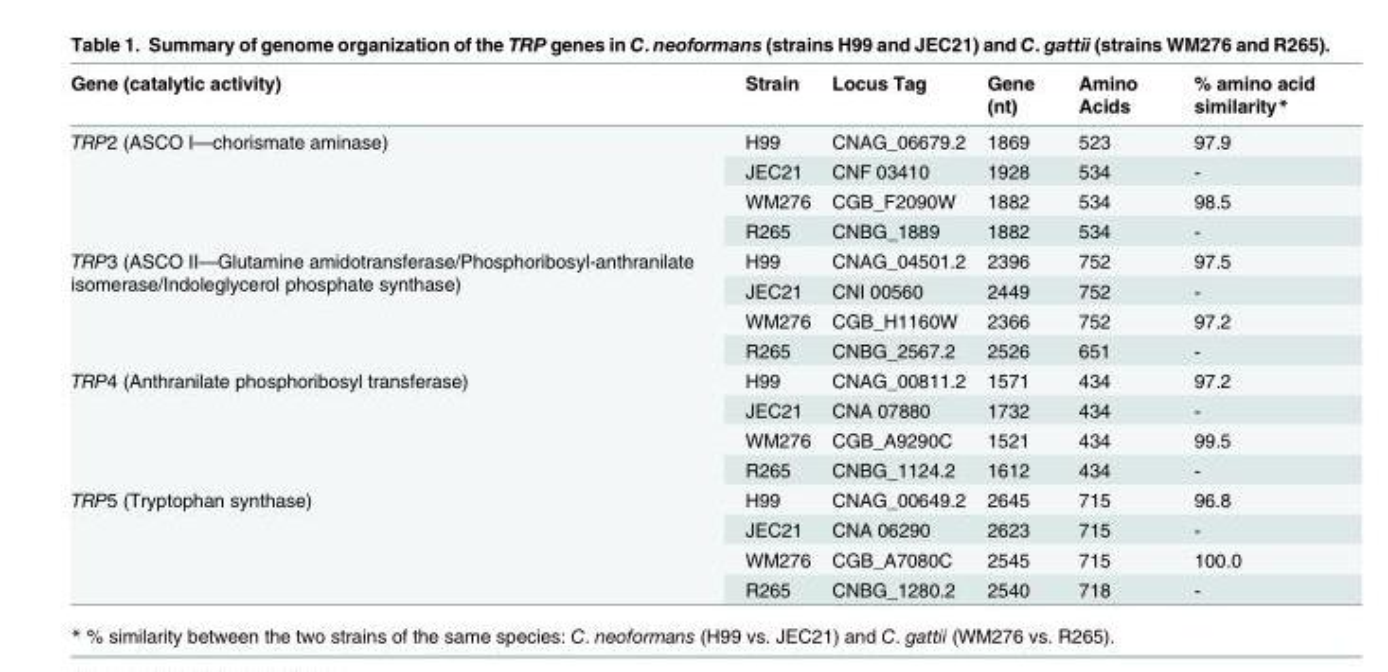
<table><thead><tr><td>Gene (catalytic activity)</td><td>Strain</td><td>Locus Tag</td><td>Gene (nt)</td><td>Amino Acids</td><td>% amino acid similarity*</td></tr></thead><tbody><tr><td rowspan="4">TRP2 (ASCO I—chorismate aminase)</td><td>H99</td><td>CNAG_06679.2</td><td>1869</td><td>523</td><td>97.9</td></tr><tr><td>JEC21</td><td>CNF 03410</td><td>1928</td><td>534</td><td>-</td></tr><tr><td>WM276</td><td>CGB_F2090W</td><td>1882</td><td>534</td><td>98.5</td></tr><tr><td>R265</td><td>CNBG_1889</td><td>1882</td><td>534</td><td>-</td></tr><tr><td rowspan="4">TRP3 (ASCO II—Glutamine amidotransferase/Phosphoribosyl-anthranilate isomerase/Indoleglycerol phosphate synthase)</td><td>H99</td><td>CNAG_04501.2</td><td>2396</td><td>752</td><td>97.5</td></tr><tr><td>JEC21</td><td>CNI 00560</td><td>2449</td><td>752</td><td>-</td></tr><tr><td>WM276</td><td>CGB_H1160W</td><td>2366</td><td>752</td><td>97.2</td></tr><tr><td>R265</td><td>CNBG_2567.2</td><td>2526</td><td>651</td><td>-</td></tr><tr><td rowspan="4">TRP4 (Anthranilate phosphoribosyl transferase)</td><td>H99</td><td>CNAG_00811.2</td><td>1571</td><td>434</td><td>97.2</td></tr><tr><td>JEC21</td><td>CNA 07880</td><td>1732</td><td>434</td><td>-</td></tr><tr><td>WM276</td><td>CGB_A9290C</td><td>1521</td><td>434</td><td>99.5</td></tr><tr><td>R265</td><td>CNBG_1124.2</td><td>1612</td><td>434</td><td>-</td></tr><tr><td rowspan="4">TRP5 (Tryptophan synthase)</td><td>H99</td><td>CNAG_00649.2</td><td>2645</td><td>715</td><td>96.8</td></tr><tr><td>JEC21</td><td>CNA 06290</td><td>2623</td><td>715</td><td>-</td></tr><tr><td>WM276</td><td>CGB_A7080C</td><td>2545</td><td>715</td><td>100.0</td></tr><tr><td>R265</td><td>CNBG_1280.2</td><td>2540</td><td>718</td><td>-</td></tr></tbody></table>